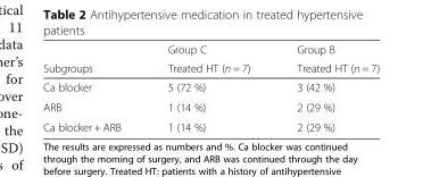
<table><thead><tr><td rowspan="2">Subgroups</td><td rowspan="2">Group C Treated HT (n = 7)</td><td rowspan="2">Group B Treated HT (n = 7)</td></tr><tr></tr></thead><tbody><tr><td>Ca blocker</td><td>5 (72 %)</td><td>3 (42 %)</td></tr><tr><td>ARB</td><td>1 (14 %)</td><td>2 (29 %)</td></tr><tr><td>Ca blocker + ARB</td><td>1 (14 %)</td><td>2 (29 %)</td></tr></tbody></table>